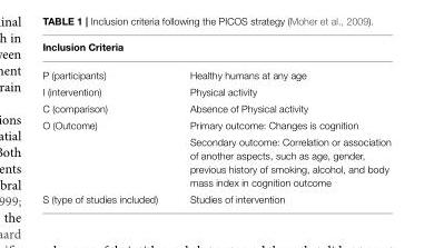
<table><thead><tr><td>Inclusion Criteria</td><td></td></tr></thead><tbody><tr><td>P (participants)</td><td>Healthy humans at any age</td></tr><tr><td>I (intervention)</td><td>Physical activity</td></tr><tr><td>C (comparison)</td><td>Absence of Physical activity</td></tr><tr><td rowspan="2">O (Outcome)</td><td>Primary outcome: Changes is cognition</td></tr><tr><td>Secondary outcome: Correlation or association of another aspects, such as age, gender, previous history of smoking, alcohol, and body mass index in cognition outcome</td></tr><tr><td>S (type of studies included)</td><td>Studies of intervention</td></tr></tbody></table>